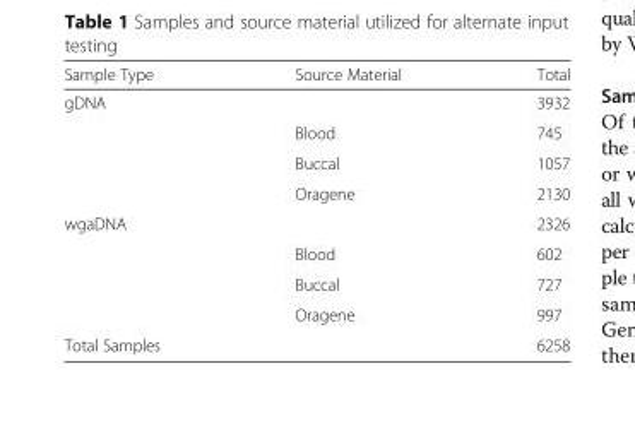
<table><thead><tr><td>Sample Type</td><td>Source Material</td><td>Total</td></tr></thead><tbody><tr><td rowspan="4">gDNA</td><td></td><td>3932</td></tr><tr><td>Blood</td><td>745</td></tr><tr><td>Buccal</td><td>1057</td></tr><tr><td>Oragene</td><td>2130</td></tr><tr><td rowspan="4">wgaDNA</td><td></td><td>2326</td></tr><tr><td>Blood</td><td>602</td></tr><tr><td>Buccal</td><td>727</td></tr><tr><td>Oragene</td><td>997</td></tr><tr><td>Total Samples</td><td></td><td>6258</td></tr></tbody></table>